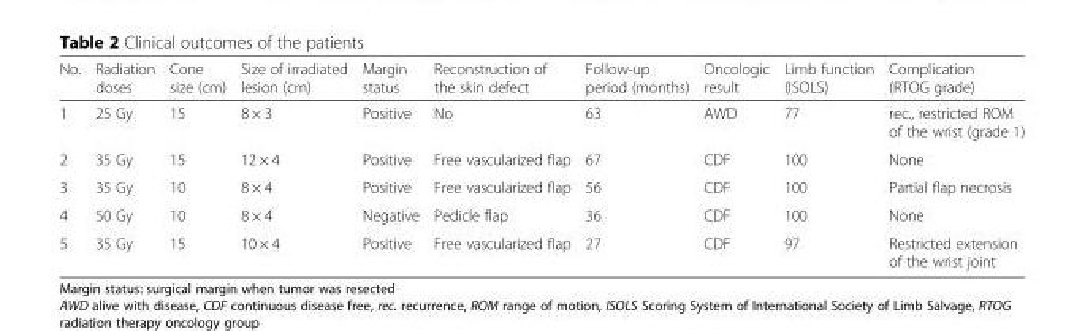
<table><thead><tr><td>No.</td><td>Radiation doses</td><td>Cone size (cm)</td><td>Size of irradiated lesion (cm)</td><td>Margin status</td><td>Reconstruction of the skin defect</td><td>Follow-up period (months)</td><td>Oncologic result</td><td>Limb function (ISOLS)</td><td>Complication (RTOG grade)</td></tr></thead><tbody><tr><td>1</td><td>25 Gy</td><td>15</td><td>8 × 3</td><td>Positive</td><td>No</td><td>63</td><td>AWD</td><td>77</td><td>rec., restricted ROM of the wrist (grade 1)</td></tr><tr><td>2</td><td>35 Gy</td><td>15</td><td>12 × 4</td><td>Positive</td><td>Free vascularized flap</td><td>67</td><td>CDF</td><td>100</td><td>None</td></tr><tr><td>3</td><td>35 Gy</td><td>10</td><td>8 × 4</td><td>Positive</td><td>Free vascularized flap</td><td>56</td><td>CDF</td><td>100</td><td>Partial flap necrosis</td></tr><tr><td>4</td><td>50 Gy</td><td>10</td><td>8 × 4</td><td>Negative</td><td>Pedicle flap</td><td>36</td><td>CDF</td><td>100</td><td>None</td></tr><tr><td>5</td><td>35 Gy</td><td>15</td><td>10 × 4</td><td>Positive</td><td>Free vascularized flap</td><td>27</td><td>CDF</td><td>97</td><td>Restricted extension of the wrist joint</td></tr></tbody></table>